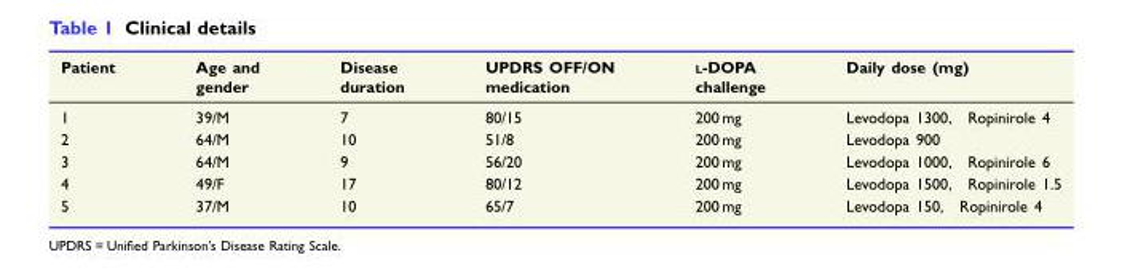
<table><thead><tr><td>Patient</td><td>Age and gender</td><td>Disease duration</td><td>UPDRS OFF/ON medication</td><td>L-DOPA challenge</td><td>Daily dose (mg)</td></tr></thead><tbody><tr><td>1</td><td>39/M</td><td>7</td><td>80/15</td><td>200 mg</td><td>Levodopa 1300, Ropinirole 4</td></tr><tr><td>2</td><td>64/M</td><td>10</td><td>51/8</td><td>200 mg</td><td>Levodopa 900</td></tr><tr><td>3</td><td>64/M</td><td>9</td><td>56/20</td><td>200 mg</td><td>Levodopa 1000, Ropinirole 6</td></tr><tr><td>4</td><td>49/F</td><td>17</td><td>80/12</td><td>200 mg</td><td>Levodopa 1500, Ropinirole 1.5</td></tr><tr><td>5</td><td>37/M</td><td>10</td><td>65/7</td><td>200 mg</td><td>Levodopa 150, Ropinirole 4</td></tr></tbody></table>